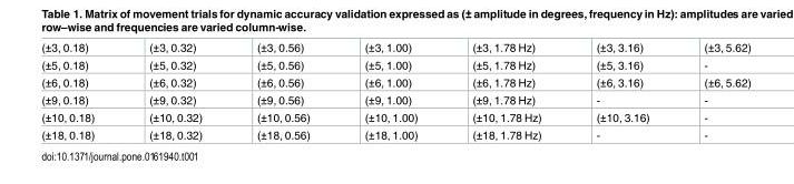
<table><tbody><tr><td>(±3, 0.18)</td><td>(±3, 0.32)</td><td>(±3, 0.56)</td><td>(±3, 1.00)</td><td>(±3, 1.78 Hz)</td><td>(±3, 3.16)</td><td>(±3, 5.62)</td></tr><tr><td>(±5, 0.18)</td><td>(±5, 0.32)</td><td>(±5, 0.56)</td><td>(±5, 1.00)</td><td>(±5, 1.78 Hz)</td><td>(±5, 3.16)</td><td>-</td></tr><tr><td>(±6, 0.18)</td><td>(±6, 0.32)</td><td>(±6, 0.56)</td><td>(±6, 1.00)</td><td>(±6, 1.78 Hz)</td><td>(±6, 3.16)</td><td>(±6, 5.62)</td></tr><tr><td>(±9, 0.18)</td><td>(±9, 0.32)</td><td>(±9, 0.56)</td><td>(±9, 1.00)</td><td>(±9, 1.78 Hz)</td><td>-</td><td>-</td></tr><tr><td>(±10, 0.18)</td><td>(±10, 0.32)</td><td>(±10, 0.56)</td><td>(±10, 1.00)</td><td>(±10, 1.78 Hz)</td><td>(±10, 3.16)</td><td>-</td></tr><tr><td>(±18, 0.18)</td><td>(±18, 0.32)</td><td>(±18, 0.56)</td><td>(±18, 1.00)</td><td>(±18, 1.78 Hz)</td><td>-</td><td>-</td></tr></tbody></table>